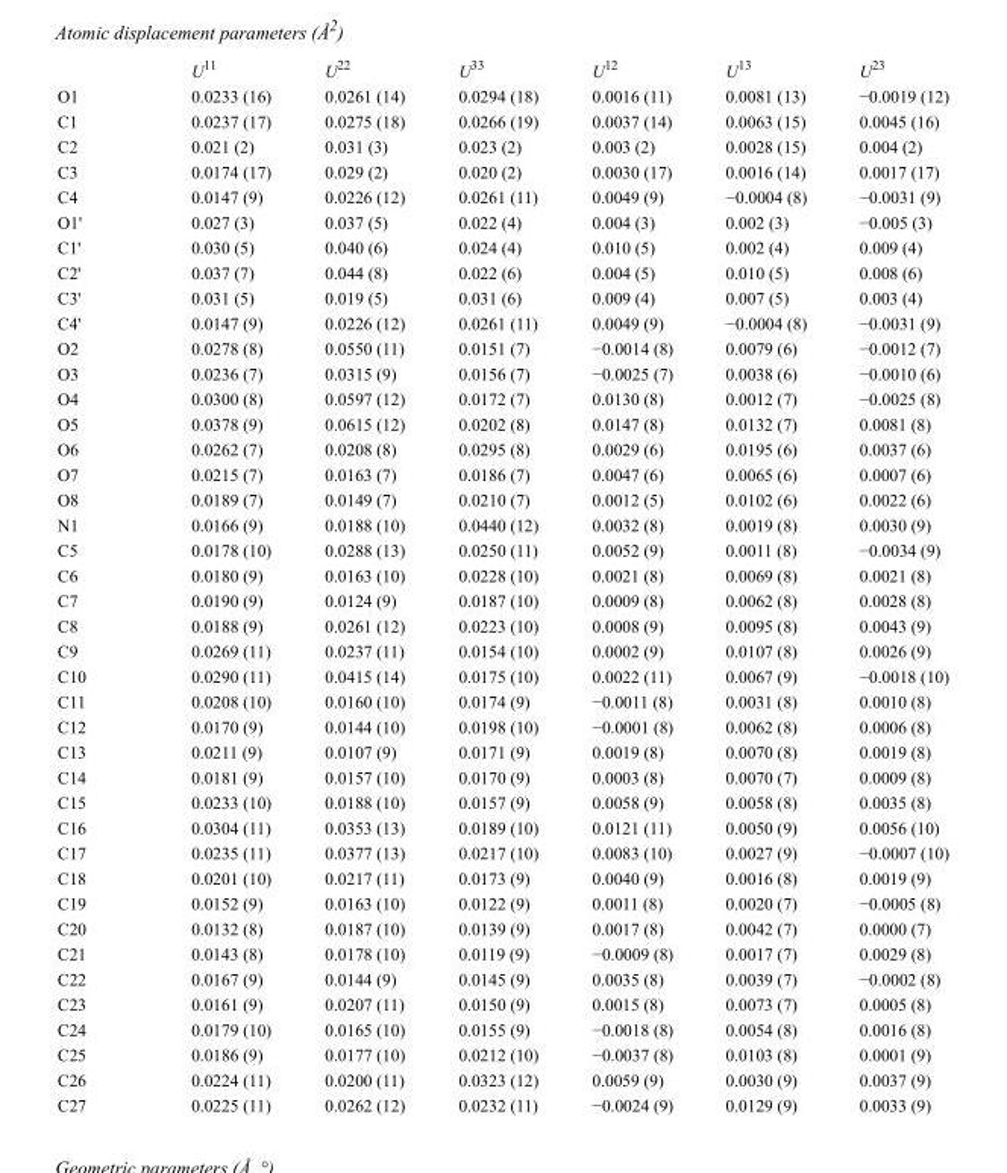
<table><thead><tr><td></td><td>U<sup>11</sup></td><td>U<sup>22</sup></td><td>U<sup>33</sup></td><td>U<sup>12</sup></td><td>U<sup>13</sup></td><td>U<sup>23</sup></td></tr></thead><tbody><tr><td>O1</td><td>0.0233 (16)</td><td>0.0261 (14)</td><td>0.0294 (18)</td><td>0.0016 (11)</td><td>0.0081 (13)</td><td>−0.0019 (12)</td></tr><tr><td>C1</td><td>0.0237 (17)</td><td>0.0275 (18)</td><td>0.0266 (19)</td><td>0.0037 (14)</td><td>0.0063 (15)</td><td>0.0045 (16)</td></tr><tr><td>C2</td><td>0.021 (2)</td><td>0.031 (3)</td><td>0.023 (2)</td><td>0.003 (2)</td><td>0.0028 (15)</td><td>0.004 (2)</td></tr><tr><td>C3</td><td>0.0174 (17)</td><td>0.029 (2)</td><td>0.020 (2)</td><td>0.0030 (17)</td><td>0.0016 (14)</td><td>0.0017 (17)</td></tr><tr><td>C4</td><td>0.0147 (9)</td><td>0.0226 (12)</td><td>0.0261 (11)</td><td>0.0049 (9)</td><td>−0.0004 (8)</td><td>−0.0031 (9)</td></tr><tr><td>O1&#x27;</td><td>0.027 (3)</td><td>0.037 (5)</td><td>0.022 (4)</td><td>0.004 (3)</td><td>0.002 (3)</td><td>−0.005 (3)</td></tr><tr><td>C1&#x27;</td><td>0.030 (5)</td><td>0.040 (6)</td><td>0.024 (4)</td><td>0.010 (5)</td><td>0.002 (4)</td><td>0.009 (4)</td></tr><tr><td>C2&#x27;</td><td>0.037 (7)</td><td>0.044 (8)</td><td>0.022 (6)</td><td>0.004 (5)</td><td>0.010 (5)</td><td>0.008 (6)</td></tr><tr><td>C3&#x27;</td><td>0.031 (5)</td><td>0.019 (5)</td><td>0.031 (6)</td><td>0.009 (4)</td><td>0.007 (5)</td><td>0.003 (4)</td></tr><tr><td>C4&#x27;</td><td>0.0147 (9)</td><td>0.0226 (12)</td><td>0.0261 (11)</td><td>0.0049 (9)</td><td>−0.0004 (8)</td><td>−0.0031 (9)</td></tr><tr><td>O2</td><td>0.0278 (8)</td><td>0.0550 (11)</td><td>0.0151 (7)</td><td>−0.0014 (8)</td><td>0.0079 (6)</td><td>−0.0012 (7)</td></tr><tr><td>O3</td><td>0.0236 (7)</td><td>0.0315 (9)</td><td>0.0156 (7)</td><td>−0.0025 (7)</td><td>0.0038 (6)</td><td>−0.0010 (6)</td></tr><tr><td>O4</td><td>0.0300 (8)</td><td>0.0597 (12)</td><td>0.0172 (7)</td><td>0.0130 (8)</td><td>0.0012 (7)</td><td>−0.0025 (8)</td></tr><tr><td>O5</td><td>0.0378 (9)</td><td>0.0615 (12)</td><td>0.0202 (8)</td><td>0.0147 (8)</td><td>0.0132 (7)</td><td>0.0081 (8)</td></tr><tr><td>O6</td><td>0.0262 (7)</td><td>0.0208 (8)</td><td>0.0295 (8)</td><td>0.0029 (6)</td><td>0.0195 (6)</td><td>0.0037 (6)</td></tr><tr><td>O7</td><td>0.0215 (7)</td><td>0.0163 (7)</td><td>0.0186 (7)</td><td>0.0047 (6)</td><td>0.0065 (6)</td><td>0.0007 (6)</td></tr><tr><td>O8</td><td>0.0189 (7)</td><td>0.0149 (7)</td><td>0.0210 (7)</td><td>0.0012 (5)</td><td>0.0102 (6)</td><td>0.0022 (6)</td></tr><tr><td>N1</td><td>0.0166 (9)</td><td>0.0188 (10)</td><td>0.0440 (12)</td><td>0.0032 (8)</td><td>0.0019 (8)</td><td>0.0030 (9)</td></tr><tr><td>C5</td><td>0.0178 (10)</td><td>0.0288 (13)</td><td>0.0250 (11)</td><td>0.0052 (9)</td><td>0.0011 (8)</td><td>−0.0034 (9)</td></tr><tr><td>C6</td><td>0.0180 (9)</td><td>0.0163 (10)</td><td>0.0228 (10)</td><td>0.0021 (8)</td><td>0.0069 (8)</td><td>0.0021 (8)</td></tr><tr><td>C7</td><td>0.0190 (9)</td><td>0.0124 (9)</td><td>0.0187 (10)</td><td>0.0009 (8)</td><td>0.0062 (8)</td><td>0.0028 (8)</td></tr><tr><td>C8</td><td>0.0188 (9)</td><td>0.0261 (12)</td><td>0.0223 (10)</td><td>0.0008 (9)</td><td>0.0095 (8)</td><td>0.0043 (9)</td></tr><tr><td>C9</td><td>0.0269 (11)</td><td>0.0237 (11)</td><td>0.0154 (10)</td><td>0.0002 (9)</td><td>0.0107 (8)</td><td>0.0026 (9)</td></tr><tr><td>C10</td><td>0.0290 (11)</td><td>0.0415 (14)</td><td>0.0175 (10)</td><td>0.0022 (11)</td><td>0.0067 (9)</td><td>−0.0018 (10)</td></tr><tr><td>C11</td><td>0.0208 (10)</td><td>0.0160 (10)</td><td>0.0174 (9)</td><td>−0.0011 (8)</td><td>0.0031 (8)</td><td>0.0010 (8)</td></tr><tr><td>C12</td><td>0.0170 (9)</td><td>0.0144 (10)</td><td>0.0198 (10)</td><td>−0.0001 (8)</td><td>0.0062 (8)</td><td>0.0006 (8)</td></tr><tr><td>C13</td><td>0.0211 (9)</td><td>0.0107 (9)</td><td>0.0171 (9)</td><td>0.0019 (8)</td><td>0.0070 (8)</td><td>0.0019 (8)</td></tr><tr><td>C14</td><td>0.0181 (9)</td><td>0.0157 (10)</td><td>0.0170 (9)</td><td>0.0003 (8)</td><td>0.0070 (7)</td><td>0.0009 (8)</td></tr><tr><td>C15</td><td>0.0233 (10)</td><td>0.0188 (10)</td><td>0.0157 (9)</td><td>0.0058 (9)</td><td>0.0058 (8)</td><td>0.0035 (8)</td></tr><tr><td>C16</td><td>0.0304 (11)</td><td>0.0353 (13)</td><td>0.0189 (10)</td><td>0.0121 (11)</td><td>0.0050 (9)</td><td>0.0056 (10)</td></tr><tr><td>C17</td><td>0.0235 (11)</td><td>0.0377 (13)</td><td>0.0217 (10)</td><td>0.0083 (10)</td><td>0.0027 (9)</td><td>−0.0007 (10)</td></tr><tr><td>C18</td><td>0.0201 (10)</td><td>0.0217 (11)</td><td>0.0173 (9)</td><td>0.0040 (9)</td><td>0.0016 (8)</td><td>0.0019 (9)</td></tr><tr><td>C19</td><td>0.0152 (9)</td><td>0.0163 (10)</td><td>0.0122 (9)</td><td>0.0011 (8)</td><td>0.0020 (7)</td><td>−0.0005 (8)</td></tr><tr><td>C20</td><td>0.0132 (8)</td><td>0.0187 (10)</td><td>0.0139 (9)</td><td>0.0017 (8)</td><td>0.0042 (7)</td><td>0.0000 (7)</td></tr><tr><td>C21</td><td>0.0143 (8)</td><td>0.0178 (10)</td><td>0.0119 (9)</td><td>−0.0009 (8)</td><td>0.0017 (7)</td><td>0.0029 (8)</td></tr><tr><td>C22</td><td>0.0167 (9)</td><td>0.0144 (9)</td><td>0.0145 (9)</td><td>0.0035 (8)</td><td>0.0039 (7)</td><td>−0.0002 (8)</td></tr><tr><td>C23</td><td>0.0161 (9)</td><td>0.0207 (11)</td><td>0.0150 (9)</td><td>0.0015 (8)</td><td>0.0073 (7)</td><td>0.0005 (8)</td></tr><tr><td>C24</td><td>0.0179 (10)</td><td>0.0165 (10)</td><td>0.0155 (9)</td><td>−0.0018 (8)</td><td>0.0054 (8)</td><td>0.0016 (8)</td></tr><tr><td>C25</td><td>0.0186 (9)</td><td>0.0177 (10)</td><td>0.0212 (10)</td><td>−0.0037 (8)</td><td>0.0103 (8)</td><td>0.0001 (9)</td></tr><tr><td>C26</td><td>0.0224 (11)</td><td>0.0200 (11)</td><td>0.0323 (12)</td><td>0.0059 (9)</td><td>0.0030 (9)</td><td>0.0037 (9)</td></tr><tr><td>C27</td><td>0.0225 (11)</td><td>0.0262 (12)</td><td>0.0232 (11)</td><td>−0.0024 (9)</td><td>0.0129 (9)</td><td>0.0033 (9)</td></tr></tbody></table>